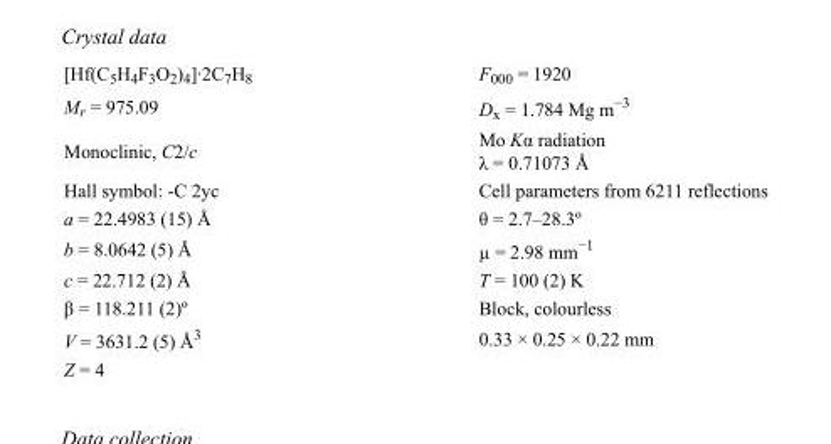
<table><tbody><tr><td>[Hf(C<sub>5</sub>H<sub>4</sub>F<sub>3</sub>O<sub>2</sub>)<sub>4</sub>]·2C<sub>7</sub>H<sub>8</sub></td><td>F<sub>000</sub> = 1920</td></tr><tr><td>M<sub>r</sub> = 975.09</td><td>D<sub>x</sub> = 1.784 Mg m<sup>−3</sup></td></tr><tr><td>Monoclinic, C2/c</td><td>Mo Kα radiation λ = 0.71073 Å</td></tr><tr><td>Hall symbol: -C 2yc</td><td>Cell parameters from 6211 reflections</td></tr><tr><td>a = 22.4983 (15) Å</td><td>θ = 2.7–28.3º</td></tr><tr><td>b = 8.0642 (5) Å</td><td>µ = 2.98 mm<sup>−1</sup></td></tr><tr><td>c = 22.712 (2) Å</td><td>T = 100 (2) K</td></tr><tr><td>β = 118.211 (2)º</td><td>Block, colourless</td></tr><tr><td>V = 3631.2 (5) Å<sup>3</sup></td><td>0.33 × 0.25 × 0.22 mm</td></tr><tr><td>Z = 4</td><td></td></tr></tbody></table>